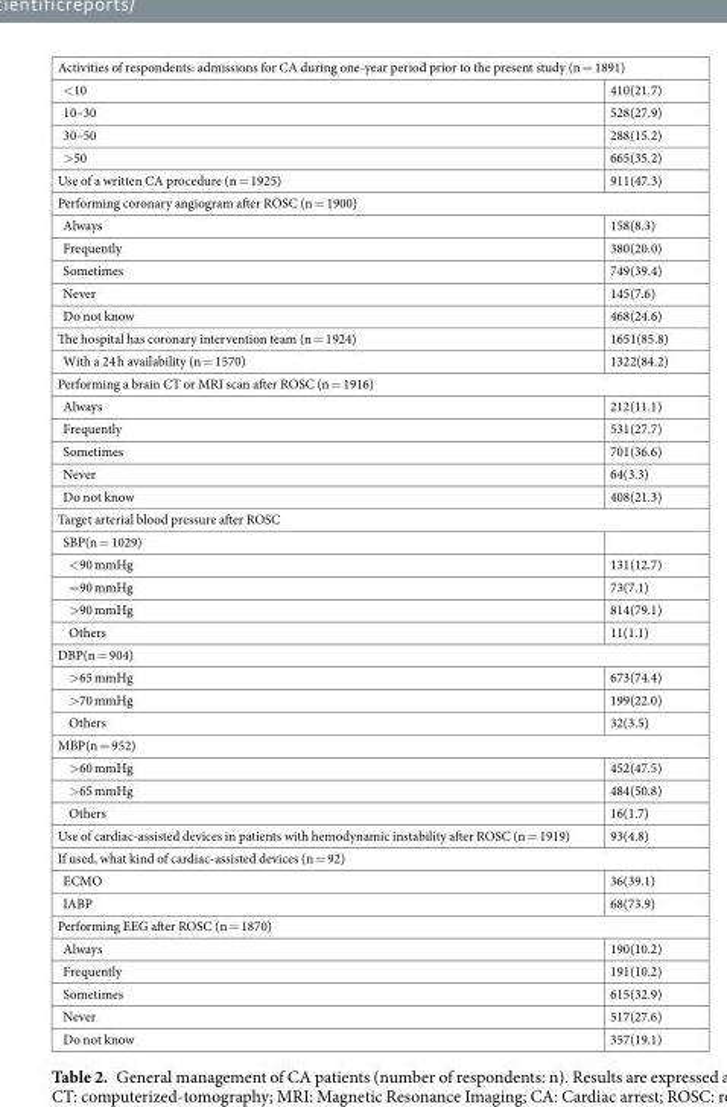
<table><tbody><tr><td colspan="2">Activities of respondents: admissions for CA during one-year period prior to the present study (n = 1891)</td></tr><tr><td>&lt;10</td><td>410(21.7)</td></tr><tr><td>10–30</td><td>528(27.9)</td></tr><tr><td>30–50</td><td>288(15.2)</td></tr><tr><td>&gt;50</td><td>665(35.2)</td></tr><tr><td>Use of a written CA procedure (n = 1925)</td><td>911(47.3)</td></tr><tr><td colspan="2">Performing coronary angiogram after ROSC (n = 1900)</td></tr><tr><td>Always</td><td>158(8.3)</td></tr><tr><td>Frequently</td><td>380(20.0)</td></tr><tr><td>Sometimes</td><td>749(39.4)</td></tr><tr><td>Never</td><td>145(7.6)</td></tr><tr><td>Do not know</td><td>468(24.6)</td></tr><tr><td>The hospital has coronary intervention team (n = 1924)</td><td>1651(85.8)</td></tr><tr><td>With a 24 h availability (n = 1570)</td><td>1322(84.2)</td></tr><tr><td colspan="2">Performing a brain CT or MRI scan after ROSC (n = 1916)</td></tr><tr><td>Always</td><td>212(11.1)</td></tr><tr><td>Frequently</td><td>531(27.7)</td></tr><tr><td>Sometimes</td><td>701(36.6)</td></tr><tr><td>Never</td><td>64(3.3)</td></tr><tr><td>Do not know</td><td>408(21.3)</td></tr><tr><td colspan="2">Target arterial blood pressure after ROSC</td></tr><tr><td colspan="2">SBP(n = 1029)</td></tr><tr><td>&lt;90 mmHg</td><td>131(12.7)</td></tr><tr><td>=90 mmHg</td><td>73(7.1)</td></tr><tr><td>&gt;90 mmHg</td><td>814(79.1)</td></tr><tr><td>Others</td><td>11(1.1)</td></tr><tr><td colspan="2">DBP(n = 904)</td></tr><tr><td>&gt;65 mmHg</td><td>673(74.4)</td></tr><tr><td>&gt;70 mmHg</td><td>199(22.0)</td></tr><tr><td>Others</td><td>32(3.5)</td></tr><tr><td colspan="2">MBP(n = 952)</td></tr><tr><td>&gt;60 mmHg</td><td>452(47.5)</td></tr><tr><td>&gt;65 mmHg</td><td>484(50.8)</td></tr><tr><td>Others</td><td>16(1.7)</td></tr><tr><td>Use of cardiac-assisted devices in patients with hemodynamic instability after ROSC (n = 1919)</td><td>93(4.8)</td></tr><tr><td colspan="2">If used, what kind of cardiac-assisted devices (n = 92)</td></tr><tr><td>ECMO</td><td>36(39.1)</td></tr><tr><td>IABP</td><td>68(73.9)</td></tr><tr><td colspan="2">Performing EEG after ROSC (n = 1870)</td></tr><tr><td>Always</td><td>190(10.2)</td></tr><tr><td>Frequently</td><td>191(10.2)</td></tr><tr><td>Sometimes</td><td>615(32.9)</td></tr><tr><td>Never</td><td>517(27.6)</td></tr><tr><td>Do not know</td><td>357(19.1)</td></tr></tbody></table>